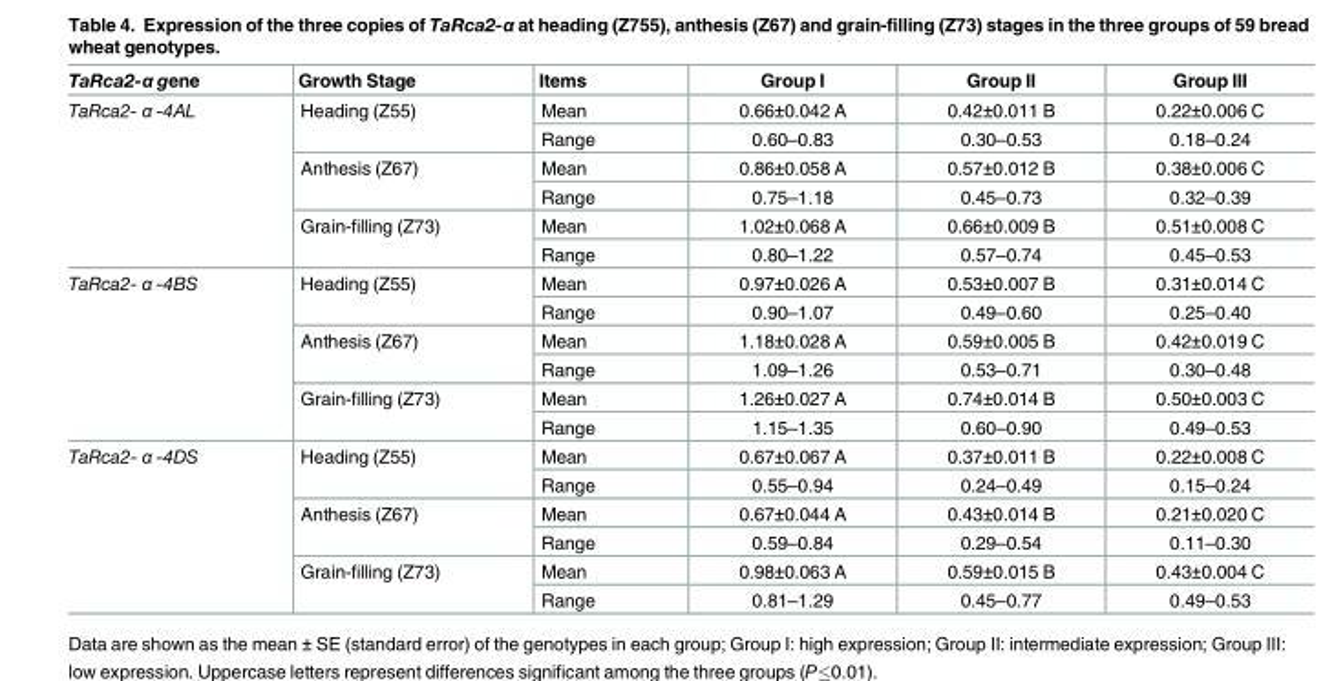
<table><thead><tr><td>TaRca2-α gene</td><td>Growth Stage</td><td>Items</td><td>Group I</td><td>Group II</td><td>Group III</td></tr></thead><tbody><tr><td rowspan="6">TaRca2- α -4AL</td><td rowspan="2">Heading (Z55)</td><td>Mean</td><td>0.66±0.042 A</td><td>0.42±0.011 B</td><td>0.22±0.006 C</td></tr><tr><td>Range</td><td>0.60–0.83</td><td>0.30–0.53</td><td>0.18–0.24</td></tr><tr><td rowspan="2">Anthesis (Z67)</td><td>Mean</td><td>0.86±0.058 A</td><td>0.57±0.012 B</td><td>0.38±0.006 C</td></tr><tr><td>Range</td><td>0.75–1.18</td><td>0.45–0.73</td><td>0.32–0.39</td></tr><tr><td rowspan="2">Grain-filling (Z73)</td><td>Mean</td><td>1.02±0.068 A</td><td>0.66±0.009 B</td><td>0.51±0.008 C</td></tr><tr><td>Range</td><td>0.80–1.22</td><td>0.57–0.74</td><td>0.45–0.53</td></tr><tr><td rowspan="6">TaRca2- α -4BS</td><td rowspan="2">Heading (Z55)</td><td>Mean</td><td>0.97±0.026 A</td><td>0.53±0.007 B</td><td>0.31±0.014 C</td></tr><tr><td>Range</td><td>0.90–1.07</td><td>0.49–0.60</td><td>0.25–0.40</td></tr><tr><td rowspan="2">Anthesis (Z67)</td><td>Mean</td><td>1.18±0.028 A</td><td>0.59±0.005 B</td><td>0.42±0.019 C</td></tr><tr><td>Range</td><td>1.09–1.26</td><td>0.53–0.71</td><td>0.30–0.48</td></tr><tr><td rowspan="2">Grain-filling (Z73)</td><td>Mean</td><td>1.26±0.027 A</td><td>0.74±0.014 B</td><td>0.50±0.003 C</td></tr><tr><td>Range</td><td>1.15–1.35</td><td>0.60–0.90</td><td>0.49–0.53</td></tr><tr><td rowspan="6">TaRca2- α -4DS</td><td rowspan="2">Heading (Z55)</td><td>Mean</td><td>0.67±0.067 A</td><td>0.37±0.011 B</td><td>0.22±0.008 C</td></tr><tr><td>Range</td><td>0.55–0.94</td><td>0.24–0.49</td><td>0.15–0.24</td></tr><tr><td rowspan="2">Anthesis (Z67)</td><td>Mean</td><td>0.67±0.044 A</td><td>0.43±0.014 B</td><td>0.21±0.020 C</td></tr><tr><td>Range</td><td>0.59–0.84</td><td>0.29–0.54</td><td>0.11–0.30</td></tr><tr><td rowspan="2">Grain-filling (Z73)</td><td>Mean</td><td>0.98±0.063 A</td><td>0.59±0.015 B</td><td>0.43±0.004 C</td></tr><tr><td>Range</td><td>0.81–1.29</td><td>0.45–0.77</td><td>0.49–0.53</td></tr></tbody></table>